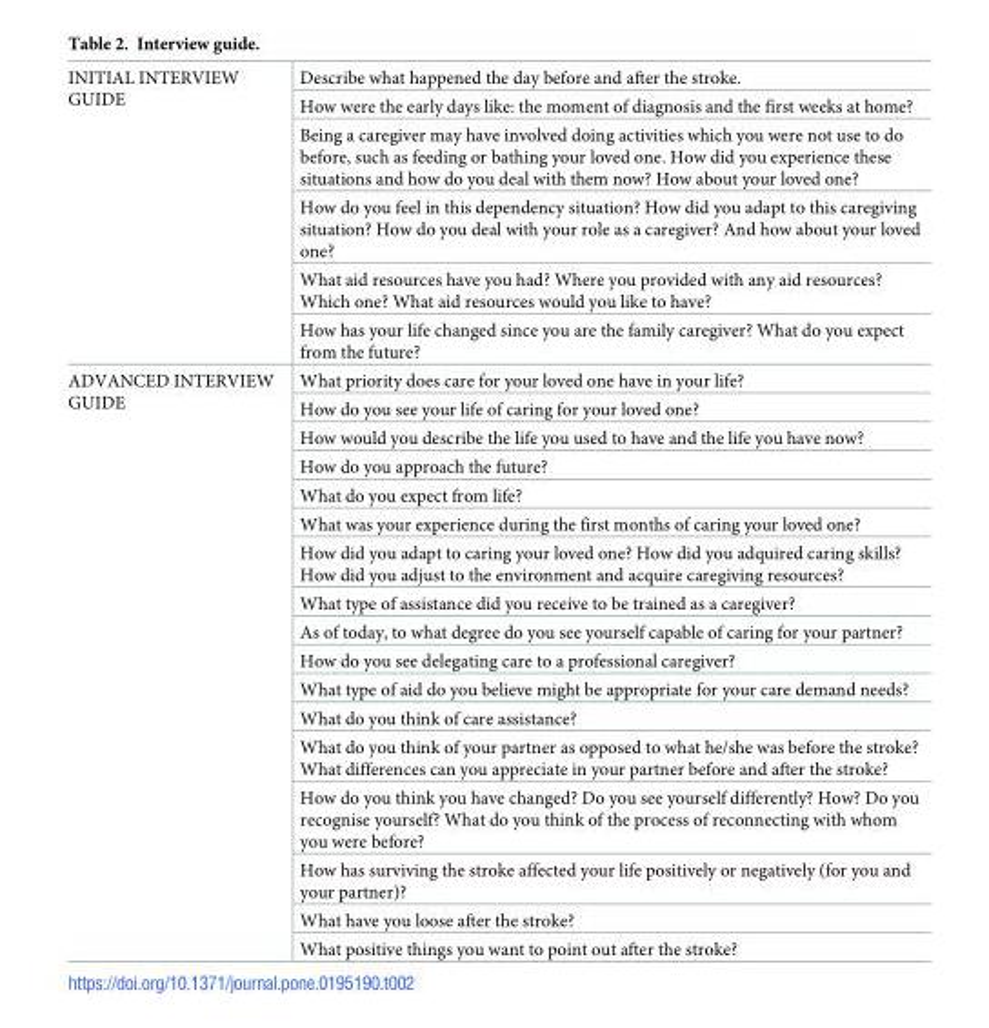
<table><tbody><tr><td rowspan="6">INITIAL INTERVIEW GUIDE</td><td>Describe what happened the day before and after the stroke.</td></tr><tr><td>How were the early days like: the moment of diagnosis and the first weeks at home?</td></tr><tr><td>Being a caregiver may have involved doing activities which you were not use to do before, such as feeding or bathing your loved one. How did you experience these situations and how do you deal with them now? How about your loved one?</td></tr><tr><td>How do you feel in this dependency situation? How did you adapt to this caregiving situation? How do you deal with your role as a caregiver? And how about your loved one?</td></tr><tr><td>What aid resources have you had? Where you provided with any aid resources? Which one? What aid resources would you like to have?</td></tr><tr><td>How has your life changed since you are the family caregiver? What do you expect from the future?</td></tr><tr><td rowspan="17">ADVANCED INTERVIEW GUIDE</td><td>What priority does care for your loved one have in your life?</td></tr><tr><td>How do you see your life of caring for your loved one?</td></tr><tr><td>How would you describe the life you used to have and the life you have now?</td></tr><tr><td>How do you approach the future?</td></tr><tr><td>What do you expect from life?</td></tr><tr><td>What was your experience during the first months of caring your loved one?</td></tr><tr><td>How did you adapt to caring your loved one? How did you adquired caring skills? How did you adjust to the environment and acquire caregiving resources?</td></tr><tr><td>What type of assistance did you receive to be trained as a caregiver?</td></tr><tr><td>As of today, to what degree do you see yourself capable of caring for your partner?</td></tr><tr><td>How do you see delegating care to a professional caregiver?</td></tr><tr><td>What type of aid do you believe might be appropriate for your care demand needs?</td></tr><tr><td>What do you think of care assistance?</td></tr><tr><td>What do you think of your partner as opposed to what he/she was before the stroke? What differences can you appreciate in your partner before and after the stroke?</td></tr><tr><td>How do you think you have changed? Do you see yourself differently? How? Do you recognise yourself? What do you think of the process of reconnecting with whom you were before?</td></tr><tr><td>How has surviving the stroke affected your life positively or negatively (for you and your partner)?</td></tr><tr><td>What have you loose after the stroke?</td></tr><tr><td>What positive things you want to point out after the stroke?</td></tr></tbody></table>